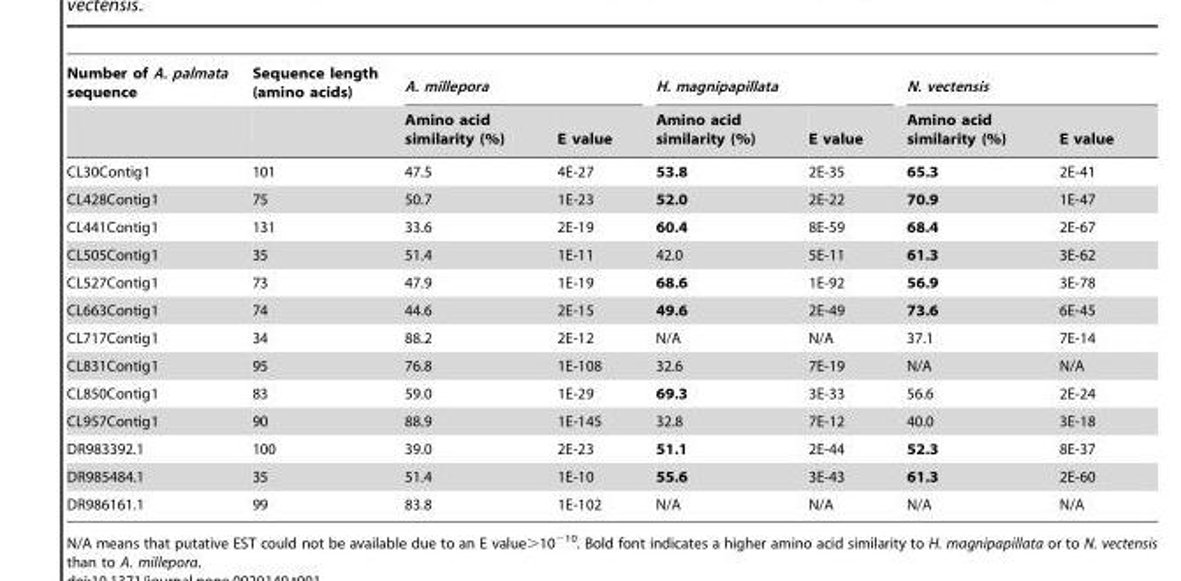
<table><thead><tr><td rowspan="2">Number of A. palmata sequence</td><td rowspan="2">Sequence length (amino acids)</td><td colspan="2">A. millepora</td><td colspan="2">H. magnipapillata</td><td colspan="2">N. vectensis</td></tr><tr><td>Amino acid similarity (%)</td><td>E value</td><td>Amino acid similarity (%)</td><td>E value</td><td>Amino acid similarity (%)</td><td>E value</td></tr></thead><tbody><tr><td>CL30Contig1</td><td>101</td><td>47.5</td><td>4E-27</td><td>53.8</td><td>2E-35</td><td>65.3</td><td>2E-41</td></tr><tr><td>CL428Contig1</td><td>75</td><td>50.7</td><td>1E-23</td><td>52.0</td><td>2E-22</td><td>70.9</td><td>1E-47</td></tr><tr><td>CL441Contig1</td><td>131</td><td>33.6</td><td>2E-19</td><td>60.4</td><td>8E-59</td><td>68.4</td><td>2E-67</td></tr><tr><td>CL505Contig1</td><td>35</td><td>51.4</td><td>1E-11</td><td>42.0</td><td>5E-11</td><td>61.3</td><td>3E-62</td></tr><tr><td>CL527Contig1</td><td>73</td><td>47.9</td><td>1E-19</td><td>68.6</td><td>1E-92</td><td>56.9</td><td>3E-78</td></tr><tr><td>CL663Contig1</td><td>74</td><td>44.6</td><td>2E-15</td><td>49.6</td><td>2E-49</td><td>73.6</td><td>6E-45</td></tr><tr><td>CL717Contig1</td><td>34</td><td>88.2</td><td>2E-12</td><td>N/A</td><td>N/A</td><td>37.1</td><td>7E-14</td></tr><tr><td>CL831Contig1</td><td>95</td><td>76.8</td><td>1E-108</td><td>32.6</td><td>7E-19</td><td>N/A</td><td>N/A</td></tr><tr><td>CL850Contig1</td><td>83</td><td>59.0</td><td>1E-29</td><td>69.3</td><td>3E-33</td><td>56.6</td><td>2E-24</td></tr><tr><td>CL957Contig1</td><td>90</td><td>88.9</td><td>1E-145</td><td>32.8</td><td>7E-12</td><td>40.0</td><td>3E-18</td></tr><tr><td>DR983392.1</td><td>100</td><td>39.0</td><td>2E-23</td><td>51.1</td><td>2E-44</td><td>52.3</td><td>8E-37</td></tr><tr><td>DR985484.1</td><td>35</td><td>51.4</td><td>1E-10</td><td>55.6</td><td>3E-43</td><td>61.3</td><td>2E-60</td></tr><tr><td>DR986161.1</td><td>99</td><td>83.8</td><td>1E-102</td><td>N/A</td><td>N/A</td><td>N/A</td><td>N/A</td></tr></tbody></table>